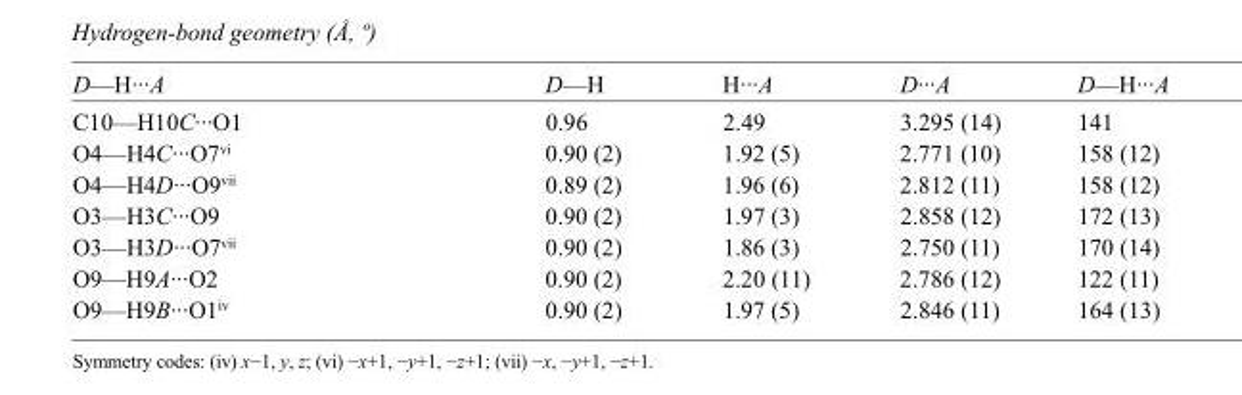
<table><tbody><tr><td>D—H···A</td><td>D—H</td><td>H···A</td><td>D···A</td><td>D—H···A</td></tr><tr><td>C10—H10C···O1</td><td>0.96</td><td>2.49</td><td>3.295 (14)</td><td>141</td></tr><tr><td>O4—H4C···O7<sup>vi</sup></td><td>0.90 (2)</td><td>1.92 (5)</td><td>2.771 (10)</td><td>158 (12)</td></tr><tr><td>O4—H4D···O9<sup>vii</sup></td><td>0.89 (2)</td><td>1.96 (6)</td><td>2.812 (11)</td><td>158 (12)</td></tr><tr><td>O3—H3C···O9</td><td>0.90 (2)</td><td>1.97 (3)</td><td>2.858 (12)</td><td>172 (13)</td></tr><tr><td>O3—H3D···O7<sup>vii</sup></td><td>0.90 (2)</td><td>1.86 (3)</td><td>2.750 (11)</td><td>170 (14)</td></tr><tr><td>O9—H9A···O2</td><td>0.90 (2)</td><td>2.20 (11)</td><td>2.786 (12)</td><td>122 (11)</td></tr><tr><td>O9—H9B···O1<sup>iv</sup></td><td>0.90 (2)</td><td>1.97 (5)</td><td>2.846 (11)</td><td>164 (13)</td></tr></tbody></table>